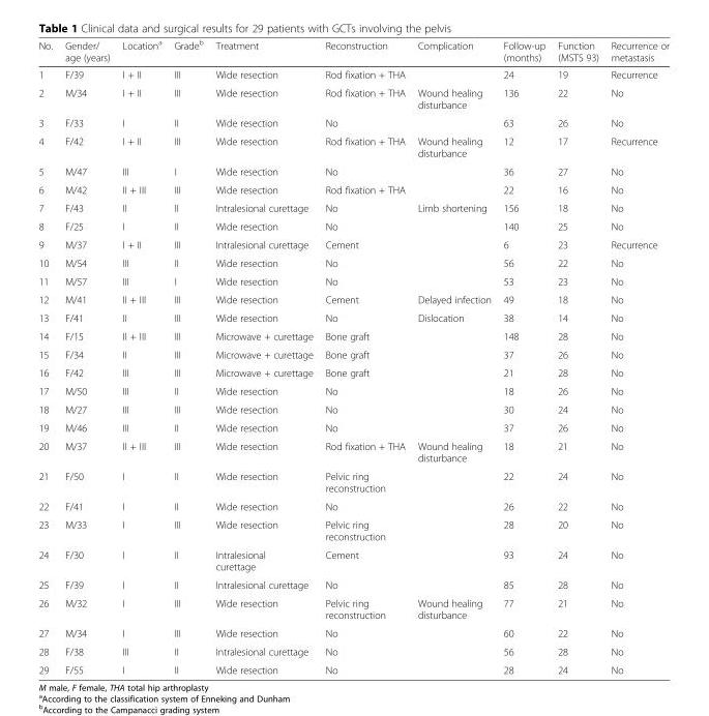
<table><thead><tr><td>No.</td><td>Gender/ age (years)</td><td>Location<sup>a</sup></td><td>Grade<sup>b</sup></td><td>Treatment</td><td>Reconstruction</td><td>Complication</td><td>Follow-up (months)</td><td>Function (MSTS 93)</td><td>Recurrence or metastasis</td></tr></thead><tbody><tr><td>1</td><td>F/39</td><td>I + II</td><td>III</td><td>Wide resection</td><td>Rod fixation + THA</td><td></td><td>24</td><td>19</td><td>Recurrence</td></tr><tr><td>2</td><td>M/34</td><td>I + II</td><td>III</td><td>Wide resection</td><td>Rod fixation + THA</td><td>Wound healing disturbance</td><td>136</td><td>22</td><td>No</td></tr><tr><td>3</td><td>F/33</td><td>I</td><td>II</td><td>Wide resection</td><td>No</td><td></td><td>63</td><td>26</td><td>No</td></tr><tr><td>4</td><td>F/42</td><td>I + II</td><td>III</td><td>Wide resection</td><td>Rod fixation + THA</td><td>Wound healing disturbance</td><td>12</td><td>17</td><td>Recurrence</td></tr><tr><td>5</td><td>M/47</td><td>III</td><td>I</td><td>Wide resection</td><td>No</td><td></td><td>36</td><td>27</td><td>No</td></tr><tr><td>6</td><td>M/42</td><td>II + III</td><td>III</td><td>Wide resection</td><td>Rod fixation + THA</td><td></td><td>22</td><td>16</td><td>No</td></tr><tr><td>7</td><td>F/43</td><td>II</td><td>II</td><td>Intralesional curettage</td><td>No</td><td>Limb shortening</td><td>156</td><td>18</td><td>No</td></tr><tr><td>8</td><td>F/25</td><td>I</td><td>II</td><td>Wide resection</td><td>No</td><td></td><td>140</td><td>25</td><td>No</td></tr><tr><td>9</td><td>M/37</td><td>I + II</td><td>III</td><td>Intralesional curettage</td><td>Cement</td><td></td><td>6</td><td>23</td><td>Recurrence</td></tr><tr><td>10</td><td>M/54</td><td>III</td><td>II</td><td>Wide resection</td><td>No</td><td></td><td>56</td><td>22</td><td>No</td></tr><tr><td>11</td><td>M/57</td><td>III</td><td>I</td><td>Wide resection</td><td>No</td><td></td><td>53</td><td>23</td><td>No</td></tr><tr><td>12</td><td>M/41</td><td>II + III</td><td>III</td><td>Wide resection</td><td>Cement</td><td>Delayed infection</td><td>49</td><td>18</td><td>No</td></tr><tr><td>13</td><td>F/41</td><td>II</td><td>III</td><td>Wide resection</td><td>No</td><td>Dislocation</td><td>38</td><td>14</td><td>No</td></tr><tr><td>14</td><td>F/15</td><td>II + III</td><td>III</td><td>Microwave + curettage</td><td>Bone graft</td><td></td><td>148</td><td>28</td><td>No</td></tr><tr><td>15</td><td>F/34</td><td>II</td><td>III</td><td>Microwave + curettage</td><td>Bone graft</td><td></td><td>37</td><td>26</td><td>No</td></tr><tr><td>16</td><td>F/42</td><td>III</td><td>III</td><td>Microwave + curettage</td><td>Bone graft</td><td></td><td>21</td><td>28</td><td>No</td></tr><tr><td>17</td><td>M/50</td><td>III</td><td>II</td><td>Wide resection</td><td>No</td><td></td><td>18</td><td>26</td><td>No</td></tr><tr><td>18</td><td>M/27</td><td>III</td><td>III</td><td>Wide resection</td><td>No</td><td></td><td>30</td><td>24</td><td>No</td></tr><tr><td>19</td><td>M/46</td><td>III</td><td>II</td><td>Wide resection</td><td>No</td><td></td><td>37</td><td>26</td><td>No</td></tr><tr><td>20</td><td>M/37</td><td>II + III</td><td>III</td><td>Wide resection</td><td>Rod fixation + THA</td><td>Wound healing disturbance</td><td>18</td><td>21</td><td>No</td></tr><tr><td>21</td><td>F/50</td><td>I</td><td>II</td><td>Wide resection</td><td>Pelvic ring reconstruction</td><td></td><td>22</td><td>24</td><td>No</td></tr><tr><td>22</td><td>F/41</td><td>I</td><td>II</td><td>Wide resection</td><td>No</td><td></td><td>26</td><td>22</td><td>No</td></tr><tr><td>23</td><td>M/33</td><td>I</td><td>III</td><td>Wide resection</td><td>Pelvic ring reconstruction</td><td></td><td>28</td><td>20</td><td>No</td></tr><tr><td>24</td><td>F/30</td><td>I</td><td>II</td><td>Intralesional curettage</td><td>Cement</td><td></td><td>93</td><td>24</td><td>No</td></tr><tr><td>25</td><td>F/39</td><td>I</td><td>II</td><td>Intralesional curettage</td><td>No</td><td></td><td>85</td><td>28</td><td>No</td></tr><tr><td>26</td><td>M/32</td><td>I</td><td>III</td><td>Wide resection</td><td>Pelvic ring reconstruction</td><td>Wound healing disturbance</td><td>77</td><td>21</td><td>No</td></tr><tr><td>27</td><td>M/34</td><td>I</td><td>III</td><td>Wide resection</td><td>No</td><td></td><td>60</td><td>22</td><td>No</td></tr><tr><td>28</td><td>F/38</td><td>III</td><td>II</td><td>Intralesional curettage</td><td>No</td><td></td><td>56</td><td>28</td><td>No</td></tr><tr><td>29</td><td>F/55</td><td>I</td><td>II</td><td>Wide resection</td><td>No</td><td></td><td>28</td><td>24</td><td>No</td></tr></tbody></table>